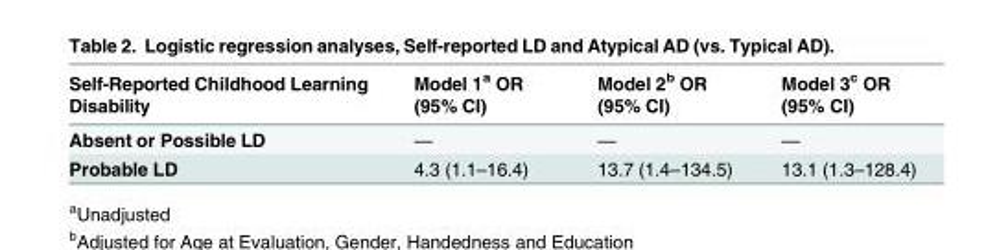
<table><thead><tr><td>Self-Reported Childhood Learning Disability</td><td>Model 1<sup>a</sup> OR (95% CI)</td><td>Model 2<sup>b</sup> OR (95% CI)</td><td>Model 3<sup>c</sup> OR (95% CI)</td></tr></thead><tbody><tr><td>Absent or Possible LD</td><td>—</td><td>—</td><td>—</td></tr><tr><td>Probable LD</td><td>4.3 (1.1–16.4)</td><td>13.7 (1.4–134.5)</td><td>13.1 (1.3–128.4)</td></tr></tbody></table>